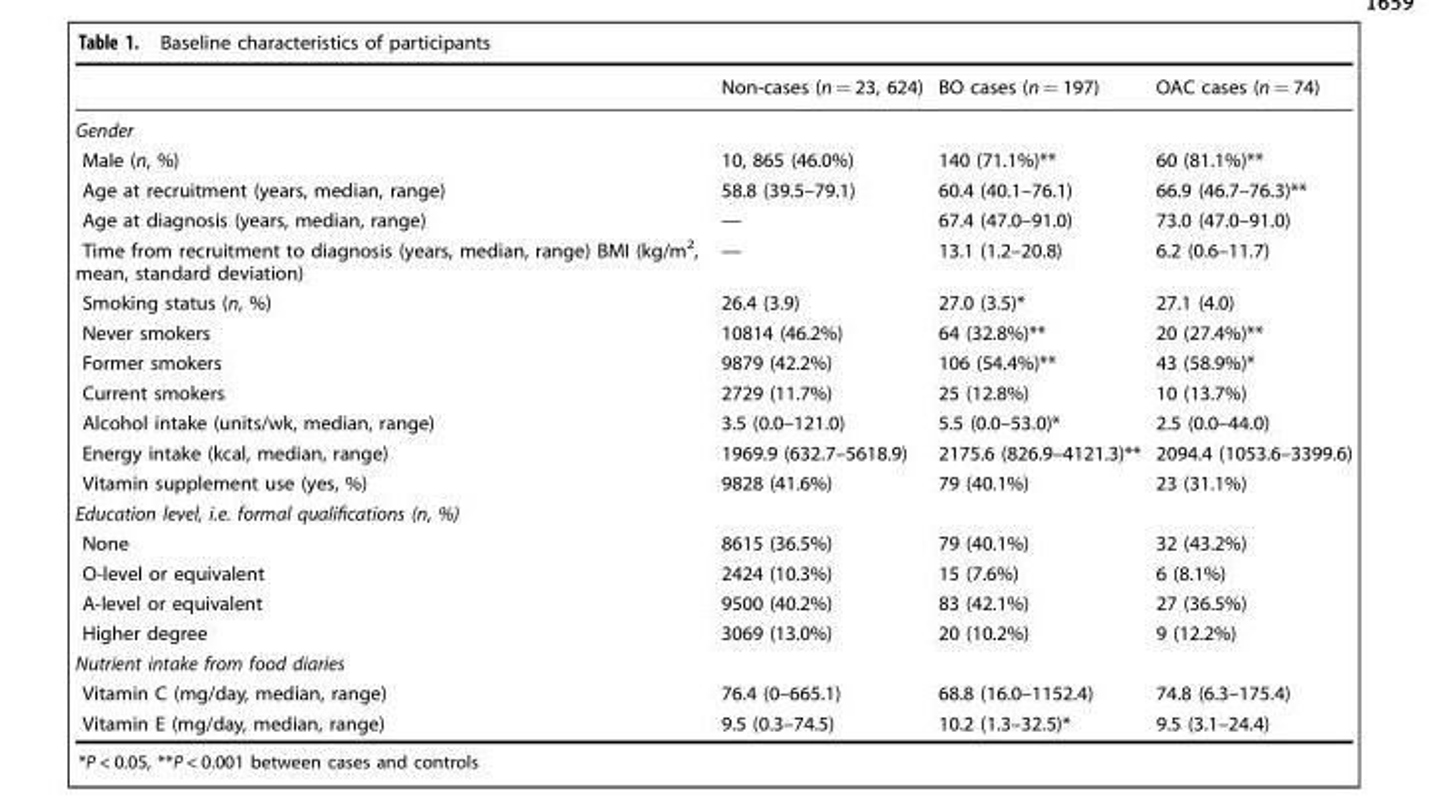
<table><thead><tr><td></td><td>Non-cases (n = 23, 624)</td><td>BO cases (n = 197)</td><td>OAC cases (n = 74)</td></tr></thead><tbody><tr><td colspan="4">Gender</td></tr><tr><td>Male (n, %)</td><td>10, 865 (46.0%)</td><td>140 (71.1%)**</td><td>60 (81.1%)**</td></tr><tr><td>Age at recruitment (years, median, range)</td><td>58.8 (39.5–79.1)</td><td>60.4 (40.1–76.1)</td><td>66.9 (46.7–76.3)**</td></tr><tr><td>Age at diagnosis (years, median, range)</td><td>—</td><td>67.4 (47.0–91.0)</td><td>73.0 (47.0–91.0)</td></tr><tr><td>Time from recruitment to diagnosis (years, median, range) BMI (kg/m<sup>2</sup>, mean, standard deviation)</td><td>—</td><td>13.1 (1.2–20.8)</td><td>6.2 (0.6–11.7)</td></tr><tr><td>Smoking status (n, %)</td><td>26.4 (3.9)</td><td>27.0 (3.5)*</td><td>27.1 (4.0)</td></tr><tr><td>Never smokers</td><td>10814 (46.2%)</td><td>64 (32.8%)**</td><td>20 (27.4%)**</td></tr><tr><td>Former smokers</td><td>9879 (42.2%)</td><td>106 (54.4%)**</td><td>43 (58.9%)*</td></tr><tr><td>Current smokers</td><td>2729 (11.7%)</td><td>25 (12.8%)</td><td>10 (13.7%)</td></tr><tr><td>Alcohol intake (units/wk, median, range)</td><td>3.5 (0.0–121.0)</td><td>5.5 (0.0–53.0)*</td><td>2.5 (0.0–44.0)</td></tr><tr><td>Energy intake (kcal, median, range)</td><td>1969.9 (632.7–5618.9)</td><td>2175.6 (826.9–4121.3)**</td><td>2094.4 (1053.6–3399.6)</td></tr><tr><td>Vitamin supplement use (yes, %)</td><td>9828 (41.6%)</td><td>79 (40.1%)</td><td>23 (31.1%)</td></tr><tr><td colspan="4">Education level, i.e. formal qualifications (n, %)</td></tr><tr><td>None</td><td>8615 (36.5%)</td><td>79 (40.1%)</td><td>32 (43.2%)</td></tr><tr><td>O-level or equivalent</td><td>2424 (10.3%)</td><td>15 (7.6%)</td><td>6 (8.1%)</td></tr><tr><td>A-level or equivalent</td><td>9500 (40.2%)</td><td>83 (42.1%)</td><td>27 (36.5%)</td></tr><tr><td>Higher degree</td><td>3069 (13.0%)</td><td>20 (10.2%)</td><td>9 (12.2%)</td></tr><tr><td colspan="4">Nutrient intake from food diaries</td></tr><tr><td>Vitamin C (mg/day, median, range)</td><td>76.4 (0–665.1)</td><td>68.8 (16.0–1152.4)</td><td>74.8 (6.3–175.4)</td></tr><tr><td>Vitamin E (mg/day, median, range)</td><td>9.5 (0.3–74.5)</td><td>10.2 (1.3–32.5)*</td><td>9.5 (3.1–24.4)</td></tr></tbody></table>